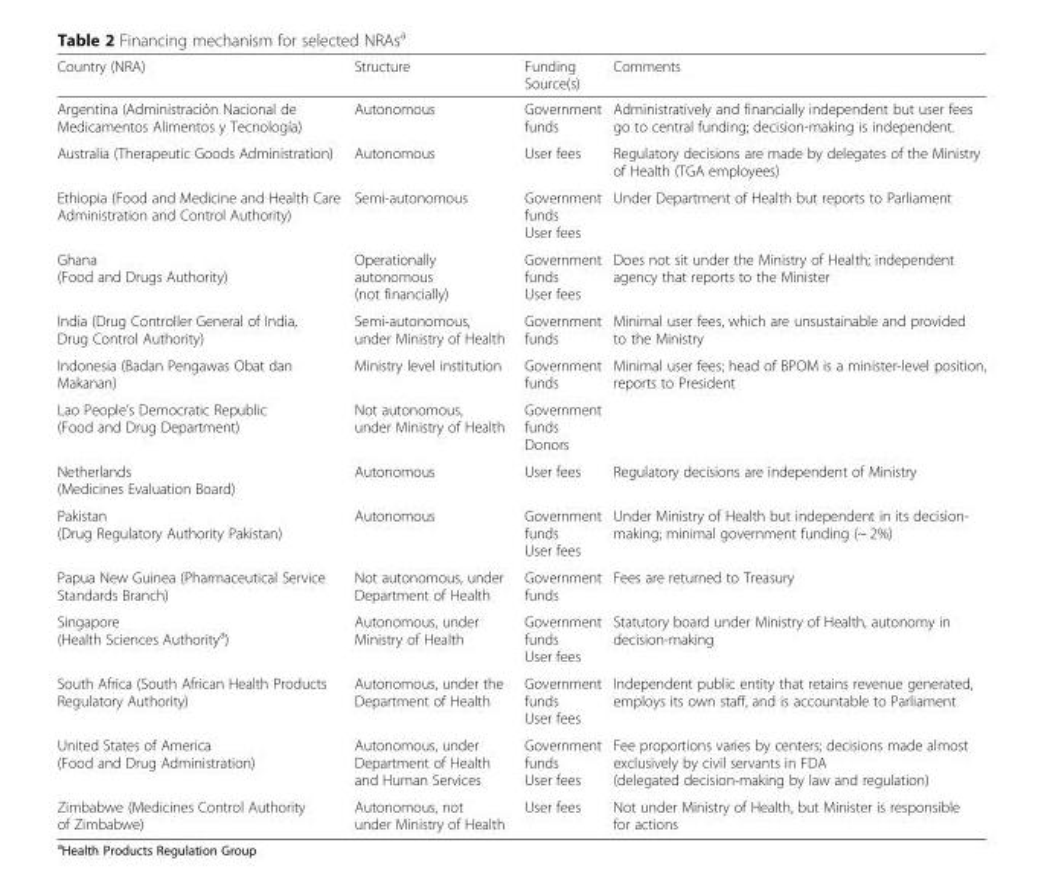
<table><thead><tr><td>Country (NRA)</td><td>Structure</td><td>Funding Source(s)</td><td>Comments</td></tr></thead><tbody><tr><td>Argentina (Administración Nacional de Medicamentos Alimentos y Tecnología)</td><td>Autonomous</td><td>Government funds</td><td>Administratively and financially independent but user fees go to central funding; decision-making is independent.</td></tr><tr><td>Australia (Therapeutic Goods Administration)</td><td>Autonomous</td><td>User fees</td><td>Regulatory decisions are made by delegates of the Ministry of Health (TGA employees)</td></tr><tr><td>Ethiopia (Food and Medicine and Health Care Administration and Control Authority)</td><td>Semi-autonomous</td><td>Government funds User fees</td><td>Under Department of Health but reports to Parliament</td></tr><tr><td>Ghana (Food and Drugs Authority)</td><td>Operationally autonomous (not financially)</td><td>Government funds User fees</td><td>Does not sit under the Ministry of Health; independent agency that reports to the Minister</td></tr><tr><td>India (Drug Controller General of India, Drug Control Authority)</td><td>Semi-autonomous, under Ministry of Health</td><td>Government funds</td><td>Minimal user fees, which are unsustainable and provided to the Ministry</td></tr><tr><td>Indonesia (Badan Pengawas Obat dan Makanan)</td><td>Ministry level institution</td><td>Government funds</td><td>Minimal user fees; head of BPOM is a minister-level position, reports to President</td></tr><tr><td>Lao People’s Democratic Republic (Food and Drug Department)</td><td>Not autonomous, under Ministry of Health</td><td>Government funds Donors</td><td></td></tr><tr><td>Netherlands (Medicines Evaluation Board)</td><td>Autonomous</td><td>User fees</td><td>Regulatory decisions are independent of Ministry</td></tr><tr><td>Pakistan (Drug Regulatory Authority Pakistan)</td><td>Autonomous</td><td>Government funds User fees</td><td>Under Ministry of Health but independent in its decision- making; minimal government funding (~ 2%)</td></tr><tr><td>Papua New Guinea (Pharmaceutical Service Standards Branch)</td><td>Not autonomous, under Department of Health</td><td>Government funds</td><td>Fees are returned to Treasury</td></tr><tr><td>Singapore (Health Sciences Authority<sup>a</sup>)</td><td>Autonomous, under Ministry of Health</td><td>Government funds User fees</td><td>Statutory board under Ministry of Health, autonomy in decision-making</td></tr><tr><td>South Africa (South African Health Products Regulatory Authority)</td><td>Autonomous, under the Department of Health</td><td>Government funds User fees</td><td>Independent public entity that retains revenue generated, employs its own staff, and is accountable to Parliament</td></tr><tr><td>United States of America (Food and Drug Administration)</td><td>Autonomous, under Department of Health and Human Services</td><td>Government funds User fees</td><td>Fee proportions varies by centers; decisions made almost exclusively by civil servants in FDA (delegated decision-making by law and regulation)</td></tr><tr><td>Zimbabwe (Medicines Control Authority of Zimbabwe)</td><td>Autonomous, not under Ministry of Health</td><td>User fees</td><td>Not under Ministry of Health, but Minister is responsible for actions</td></tr></tbody></table>